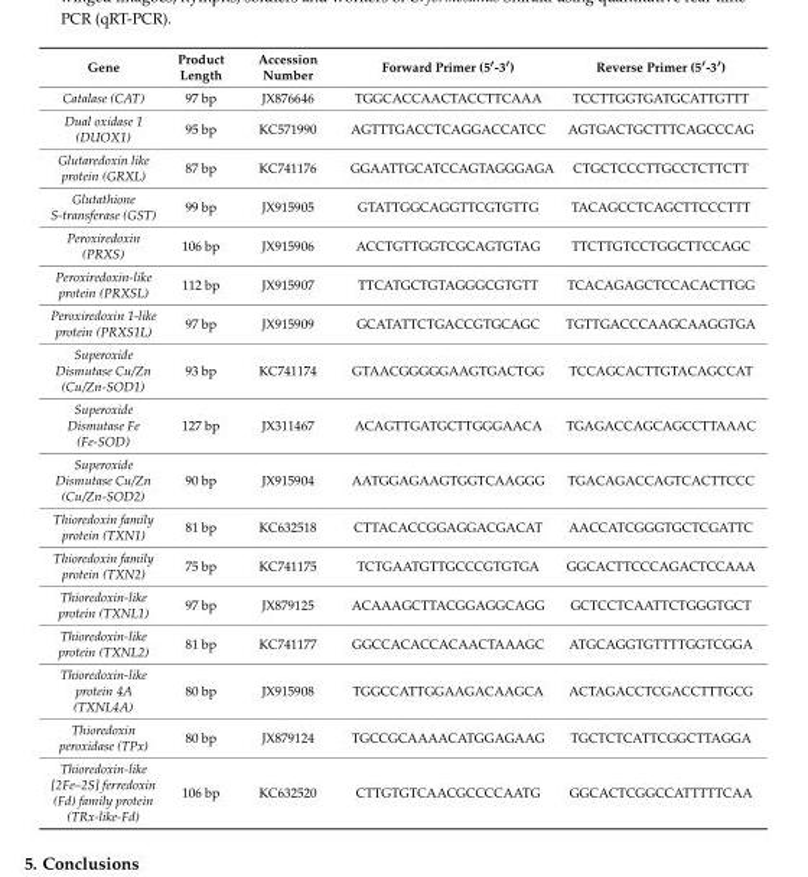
<table><thead><tr><td>Gene</td><td>Product Length</td><td>Accession Number</td><td>Forward Primer (5′-3′)</td><td>Reverse Primer (5′-3′)</td></tr></thead><tbody><tr><td>Catalase (CAT)</td><td>97 bp</td><td>JX876646</td><td>TGGCACCAACTACCTTCAAA</td><td>TCCTTGGTGATGCATTGTTT</td></tr><tr><td>Dual oxidase 1 (DUOX1)</td><td>95 bp</td><td>KC571990</td><td>AGTTTGACCTCAGGACCATCC</td><td>AGTGACTGCTTTCAGCCCAG</td></tr><tr><td>Glutaredoxin like protein (GRXL)</td><td>87 bp</td><td>KC741176</td><td>GGAATTGCATCCAGTAGGGAGA</td><td>CTGCTCCCTTGCCTCTTCTT</td></tr><tr><td>Glutathione S-transferase (GST)</td><td>99 bp</td><td>JX915905</td><td>GTATTGGCAGGTTCGTGTTG</td><td>TACAGCCTCAGCTTCCCTTT</td></tr><tr><td>Peroxiredoxin (PRXS)</td><td>106 bp</td><td>JX915906</td><td>ACCTGTTGGTCGCAGTGTAG</td><td>TTCTTGTCCTGGCTTCCAGC</td></tr><tr><td>Peroxiredoxin-like protein (PRXSL)</td><td>112 bp</td><td>JX915907</td><td>TTCATGCTGTAGGGCGTGTT</td><td>TCACAGAGCTCCACACTTGG</td></tr><tr><td>Peroxiredoxin 1-like protein (PRXS1L)</td><td>97 bp</td><td>JX915909</td><td>GCATATTCTGACCGTGCAGC</td><td>TGTTGACCCAAGCAAGGTGA</td></tr><tr><td>Superoxide Dismutase Cu/Zn (Cu/Zn-SOD1)</td><td>93 bp</td><td>KC741174</td><td>GTAACGGGGGAAGTGACTGG</td><td>TCCAGCACTTGTACAGCCAT</td></tr><tr><td>Superoxide Dismutase Fe (Fe-SOD)</td><td>127 bp</td><td>JX311467</td><td>ACAGTTGATGCTTGGGAACA</td><td>TGAGACCAGCAGCCTTAAAC</td></tr><tr><td>Superoxide Dismutase Cu/Zn (Cu/Zn-SOD2)</td><td>90 bp</td><td>JX915904</td><td>AATGGAGAAGTGGTCAAGGG</td><td>TGACAGACCAGTCACTTCCC</td></tr><tr><td>Thioredoxin family protein (TXN1)</td><td>81 bp</td><td>KC632518</td><td>CTTACACCGGAGGACGACAT</td><td>AACCATCGGGTGCTCGATTC</td></tr><tr><td>Thioredoxin family protein (TXN2)</td><td>75 bp</td><td>KC741175</td><td>TCTGAATGTTGCCCGTGTGA</td><td>GGCACTTCCCAGACTCCAAA</td></tr><tr><td>Thioredoxin-like protein (TXNL1)</td><td>97 bp</td><td>JX879125</td><td>ACAAAGCTTACGGAGGCAGG</td><td>GCTCCTCAATTCTGGGTGCT</td></tr><tr><td>Thioredoxin-like protein (TXNL2)</td><td>81 bp</td><td>KC741177</td><td>GGCCACACCACAACTAAAGC</td><td>ATGCAGGTGTTTTGGTCGGA</td></tr><tr><td>Thioredoxin-like protein 4A (TXNL4A)</td><td>80 bp</td><td>JX915908</td><td>TGGCCATTGGAAGACAAGCA</td><td>ACTAGACCTCGACCTTTGCG</td></tr><tr><td>Thioredoxin peroxidase (TPx)</td><td>80 bp</td><td>JX879124</td><td>TGCCGCAAAACATGGAGAAG</td><td>TGCTCTCATTCGGCTTAGGA</td></tr><tr><td>Thioredoxin-like [2Fe–2S] ferredoxin (Fd) family protein (TRx-like-Fd)</td><td>106 bp</td><td>KC632520</td><td>CTTGTGTCAACGCCCCAATG</td><td>GGCACTCGGCCATTTTTCAA</td></tr></tbody></table>